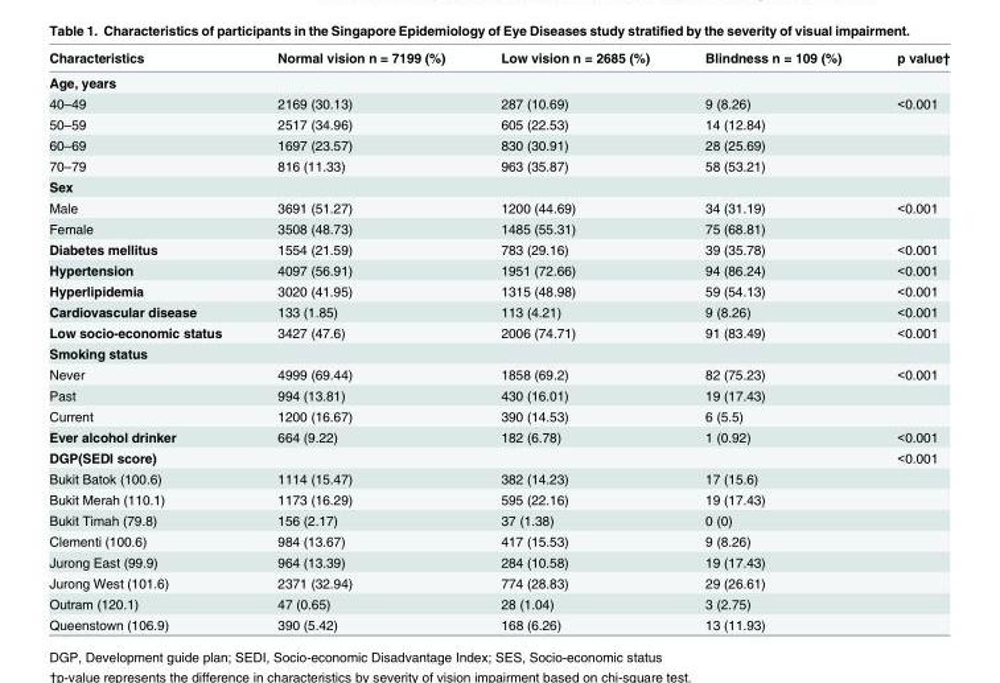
<table><thead><tr><td>Characteristics</td><td>Normal vision n = 7199 (%)</td><td>Low vision n = 2685 (%)</td><td>Blindness n = 109 (%)</td><td>p value†</td></tr></thead><tbody><tr><td colspan="5">Age, years</td></tr><tr><td>40–49</td><td>2169 (30.13)</td><td>287 (10.69)</td><td>9 (8.26)</td><td>&lt;0.001</td></tr><tr><td>50–59</td><td>2517 (34.96)</td><td>605 (22.53)</td><td>14 (12.84)</td><td></td></tr><tr><td>60–69</td><td>1697 (23.57)</td><td>830 (30.91)</td><td>28 (25.69)</td><td></td></tr><tr><td>70–79</td><td>816 (11.33)</td><td>963 (35.87)</td><td>58 (53.21)</td><td></td></tr><tr><td colspan="5">Sex</td></tr><tr><td>Male</td><td>3691 (51.27)</td><td>1200 (44.69)</td><td>34 (31.19)</td><td>&lt;0.001</td></tr><tr><td>Female</td><td>3508 (48.73)</td><td>1485 (55.31)</td><td>75 (68.81)</td><td></td></tr><tr><td>Diabetes mellitus</td><td>1554 (21.59)</td><td>783 (29.16)</td><td>39 (35.78)</td><td>&lt;0.001</td></tr><tr><td>Hypertension</td><td>4097 (56.91)</td><td>1951 (72.66)</td><td>94 (86.24)</td><td>&lt;0.001</td></tr><tr><td>Hyperlipidemia</td><td>3020 (41.95)</td><td>1315 (48.98)</td><td>59 (54.13)</td><td>&lt;0.001</td></tr><tr><td>Cardiovascular disease</td><td>133 (1.85)</td><td>113 (4.21)</td><td>9 (8.26)</td><td>&lt;0.001</td></tr><tr><td>Low socio-economic status</td><td>3427 (47.6)</td><td>2006 (74.71)</td><td>91 (83.49)</td><td>&lt;0.001</td></tr><tr><td colspan="5">Smoking status</td></tr><tr><td>Never</td><td>4999 (69.44)</td><td>1858 (69.2)</td><td>82 (75.23)</td><td>&lt;0.001</td></tr><tr><td>Past</td><td>994 (13.81)</td><td>430 (16.01)</td><td>19 (17.43)</td><td></td></tr><tr><td>Current</td><td>1200 (16.67)</td><td>390 (14.53)</td><td>6 (5.5)</td><td></td></tr><tr><td>Ever alcohol drinker</td><td>664 (9.22)</td><td>182 (6.78)</td><td>1 (0.92)</td><td>&lt;0.001</td></tr><tr><td>DGP(SEDI score)</td><td></td><td></td><td></td><td>&lt;0.001</td></tr><tr><td>Bukit Batok (100.6)</td><td>1114 (15.47)</td><td>382 (14.23)</td><td>17 (15.6)</td><td></td></tr><tr><td>Bukit Merah (110.1)</td><td>1173 (16.29)</td><td>595 (22.16)</td><td>19 (17.43)</td><td></td></tr><tr><td>Bukit Timah (79.8)</td><td>156 (2.17)</td><td>37 (1.38)</td><td>0 (0)</td><td></td></tr><tr><td>Clementi (100.6)</td><td>984 (13.67)</td><td>417 (15.53)</td><td>9 (8.26)</td><td></td></tr><tr><td>Jurong East (99.9)</td><td>964 (13.39)</td><td>284 (10.58)</td><td>19 (17.43)</td><td></td></tr><tr><td>Jurong West (101.6)</td><td>2371 (32.94)</td><td>774 (28.83)</td><td>29 (26.61)</td><td></td></tr><tr><td>Outram (120.1)</td><td>47 (0.65)</td><td>28 (1.04)</td><td>3 (2.75)</td><td></td></tr><tr><td>Queenstown (106.9)</td><td>390 (5.42)</td><td>168 (6.26)</td><td>13 (11.93)</td><td></td></tr></tbody></table>